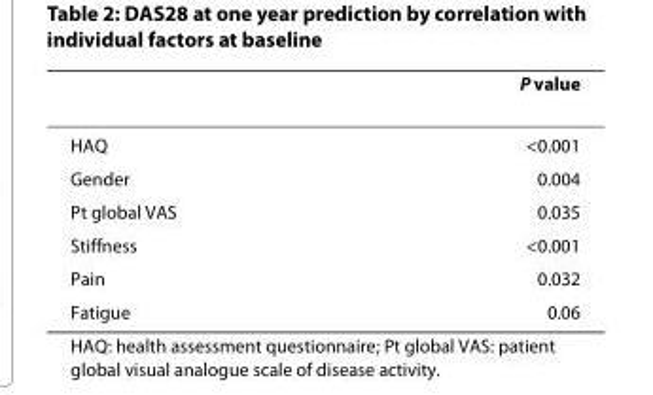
<table><thead><tr><td></td><td>P value</td></tr></thead><tbody><tr><td>HAQ</td><td>&lt;0.001</td></tr><tr><td>Gender</td><td>0.004</td></tr><tr><td>Pt global VAS</td><td>0.035</td></tr><tr><td>Stiffness</td><td>&lt;0.001</td></tr><tr><td>Pain</td><td>0.032</td></tr><tr><td>Fatigue</td><td>0.06</td></tr></tbody></table>